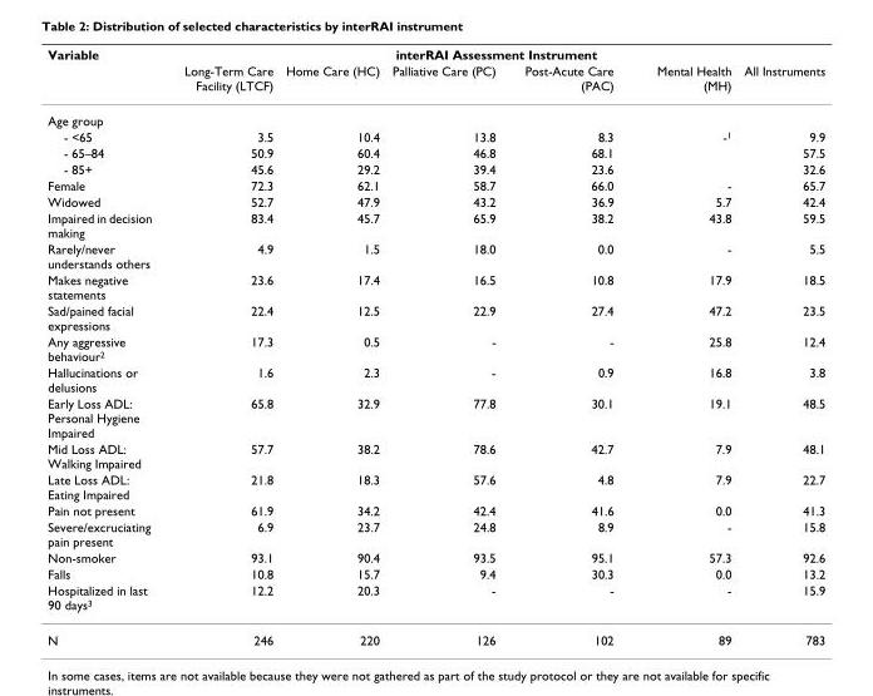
<table><thead><tr><td rowspan="2">Variable</td><td colspan="6">interRAI Assessment Instrument</td></tr><tr><td>Long-Term Care Facility (LTCF)</td><td>Home Care (HC)</td><td>Palliative Care (PC)</td><td>Post-Acute Care (PAC)</td><td>Mental Health (MH)</td><td>All Instruments</td></tr></thead><tbody><tr><td colspan="7">Age group</td></tr><tr><td>- &lt;65</td><td>3.5</td><td>10.4</td><td>13.8</td><td>8.3</td><td>-<sup>1</sup></td><td>9.9</td></tr><tr><td>- 65–84</td><td>50.9</td><td>60.4</td><td>46.8</td><td>68.1</td><td></td><td>57.5</td></tr><tr><td>- 85+</td><td>45.6</td><td>29.2</td><td>39.4</td><td>23.6</td><td></td><td>32.6</td></tr><tr><td>Female</td><td>72.3</td><td>62.1</td><td>58.7</td><td>66.0</td><td>-</td><td>65.7</td></tr><tr><td>Widowed</td><td>52.7</td><td>47.9</td><td>43.2</td><td>36.9</td><td>5.7</td><td>42.4</td></tr><tr><td>Impaired in decision making</td><td>83.4</td><td>45.7</td><td>65.9</td><td>38.2</td><td>43.8</td><td>59.5</td></tr><tr><td>Rarely/never understands others</td><td>4.9</td><td>1.5</td><td>18.0</td><td>0.0</td><td>-</td><td>5.5</td></tr><tr><td>Makes negative statements</td><td>23.6</td><td>17.4</td><td>16.5</td><td>10.8</td><td>17.9</td><td>18.5</td></tr><tr><td>Sad/pained facial expressions</td><td>22.4</td><td>12.5</td><td>22.9</td><td>27.4</td><td>47.2</td><td>23.5</td></tr><tr><td>Any aggressive behaviour<sup>2</sup></td><td>17.3</td><td>0.5</td><td>-</td><td>-</td><td>25.8</td><td>12.4</td></tr><tr><td>Hallucinations or delusions</td><td>1.6</td><td>2.3</td><td>-</td><td>0.9</td><td>16.8</td><td>3.8</td></tr><tr><td>Early Loss ADL: Personal Hygiene Impaired</td><td>65.8</td><td>32.9</td><td>77.8</td><td>30.1</td><td>19.1</td><td>48.5</td></tr><tr><td>Mid Loss ADL: Walking Impaired</td><td>57.7</td><td>38.2</td><td>78.6</td><td>42.7</td><td>7.9</td><td>48.1</td></tr><tr><td>Late Loss ADL: Eating Impaired</td><td>21.8</td><td>18.3</td><td>57.6</td><td>4.8</td><td>7.9</td><td>22.7</td></tr><tr><td>Pain not present</td><td>61.9</td><td>34.2</td><td>42.4</td><td>41.6</td><td>0.0</td><td>41.3</td></tr><tr><td>Severe/excruciating pain present</td><td>6.9</td><td>23.7</td><td>24.8</td><td>8.9</td><td>-</td><td>15.8</td></tr><tr><td>Non-smoker</td><td>93.1</td><td>90.4</td><td>93.5</td><td>95.1</td><td>57.3</td><td>92.6</td></tr><tr><td>Falls</td><td>10.8</td><td>15.7</td><td>9.4</td><td>30.3</td><td>0.0</td><td>13.2</td></tr><tr><td>Hospitalized in last 90 days<sup>3</sup></td><td>12.2</td><td>20.3</td><td>-</td><td>-</td><td>-</td><td>15.9</td></tr><tr><td>N</td><td>246</td><td>220</td><td>126</td><td>102</td><td>89</td><td>783</td></tr></tbody></table>